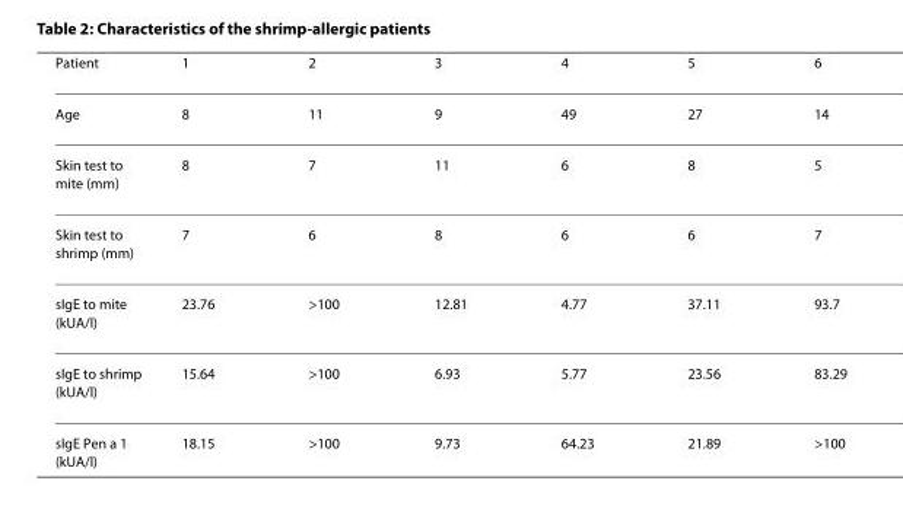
<table><thead><tr><td>Patient</td><td>1</td><td>2</td><td>3</td><td>4</td><td>5</td><td>6</td></tr></thead><tbody><tr><td>Age</td><td>8</td><td>11</td><td>9</td><td>49</td><td>27</td><td>14</td></tr><tr><td>Skin test to mite (mm)</td><td>8</td><td>7</td><td>11</td><td>6</td><td>8</td><td>5</td></tr><tr><td>Skin test to shrimp (mm)</td><td>7</td><td>6</td><td>8</td><td>6</td><td>6</td><td>7</td></tr><tr><td>sIgE to mite (kUA/l)</td><td>23.76</td><td>&gt;100</td><td>12.81</td><td>4.77</td><td>37.11</td><td>93.7</td></tr><tr><td>sIgE to shrimp (kUA/l)</td><td>15.64</td><td>&gt;100</td><td>6.93</td><td>5.77</td><td>23.56</td><td>83.29</td></tr><tr><td>sIgE Pen a 1 (kUA/l)</td><td>18.15</td><td>&gt;100</td><td>9.73</td><td>64.23</td><td>21.89</td><td>&gt;100</td></tr></tbody></table>